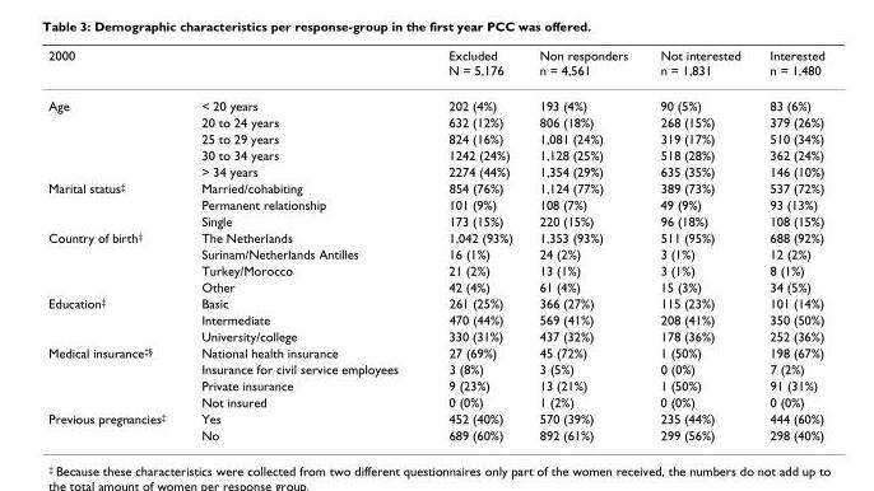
<table><thead><tr><td>2000</td><td></td><td>Excluded N = 5,176</td><td>Non responders n = 4,561</td><td>Not interested n = 1,831</td><td>Interested n = 1,480</td></tr></thead><tbody><tr><td rowspan="5">Age</td><td>&lt; 20 years</td><td>202 (4%)</td><td>193 (4%)</td><td>90 (5%)</td><td>83 (6%)</td></tr><tr><td>20 to 24 years</td><td>632 (12%)</td><td>806 (18%)</td><td>268 (15%)</td><td>379 (26%)</td></tr><tr><td>25 to 29 years</td><td>824 (16%)</td><td>1,081 (24%)</td><td>319 (17%)</td><td>510 (34%)</td></tr><tr><td>30 to 34 years</td><td>1242 (24%)</td><td>1,128 (25%)</td><td>518 (28%)</td><td>362 (24%)</td></tr><tr><td>&gt; 34 years</td><td>2274 (44%)</td><td>1,354 (29%)</td><td>635 (35%)</td><td>146 (10%)</td></tr><tr><td rowspan="3">Marital status<sup>‡</sup></td><td>Married/cohabiting</td><td>854 (76%)</td><td>1,124 (77%)</td><td>389 (73%)</td><td>537 (72%)</td></tr><tr><td>Permanent relationship</td><td>101 (9%)</td><td>108 (7%)</td><td>49 (9%)</td><td>93 (13%)</td></tr><tr><td>Single</td><td>173 (15%)</td><td>220 (15%)</td><td>96 (18%)</td><td>108 (15%)</td></tr><tr><td rowspan="4">Country of birth<sup>‡</sup></td><td>The Netherlands</td><td>1,042 (93%)</td><td>1,353 (93%)</td><td>511 (95%)</td><td>688 (92%)</td></tr><tr><td>Surinam/Netherlands Antilles</td><td>16 (1%)</td><td>24 (2%)</td><td>3 (1%)</td><td>12 (2%)</td></tr><tr><td>Turkey/Morocco</td><td>21 (2%)</td><td>13 (1%)</td><td>3 (1%)</td><td>8 (1%)</td></tr><tr><td>Other</td><td>42 (4%)</td><td>61 (4%)</td><td>15 (3%)</td><td>34 (5%)</td></tr><tr><td rowspan="3">Education<sup>‡</sup></td><td>Basic</td><td>261 (25%)</td><td>366 (27%)</td><td>115 (23%)</td><td>101 (14%)</td></tr><tr><td>Intermediate</td><td>470 (44%)</td><td>569 (41%)</td><td>208 (41%)</td><td>350 (50%)</td></tr><tr><td>University/college</td><td>330 (31%)</td><td>437 (32%)</td><td>178 (36%)</td><td>252 (36%)</td></tr><tr><td rowspan="4">Medical insurance<sup>‡§</sup></td><td>National health insurance</td><td>27 (69%)</td><td>45 (72%)</td><td>1 (50%)</td><td>198 (67%)</td></tr><tr><td>Insurance for civil service employees</td><td>3 (8%)</td><td>3 (5%)</td><td>0 (0%)</td><td>7 (2%)</td></tr><tr><td>Private insurance</td><td>9 (23%)</td><td>13 (21%)</td><td>1 (50%)</td><td>91 (31%)</td></tr><tr><td>Not insured</td><td>0 (0%)</td><td>1 (2%)</td><td>0 (0%)</td><td>0 (0%)</td></tr><tr><td rowspan="2">Previous pregnancies<sup>‡</sup></td><td>Yes</td><td>452 (40%)</td><td>570 (39%)</td><td>235 (44%)</td><td>444 (60%)</td></tr><tr><td>No</td><td>689 (60%)</td><td>892 (61%)</td><td>299 (56%)</td><td>298 (40%)</td></tr></tbody></table>